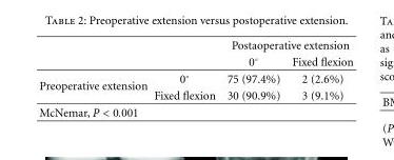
<table><thead><tr><td rowspan="2"></td><td rowspan="2"></td><td colspan="2">Postaoperative extension</td></tr><tr><td>0◦</td><td>Fixed flexion</td></tr></thead><tbody><tr><td rowspan="2">Preoperative extension</td><td>0◦</td><td>75 (97.4%)</td><td>2 (2.6%)</td></tr><tr><td>Fixed flexion</td><td>30 (90.9%)</td><td>3 (9.1%)</td></tr><tr><td>McNemar, P &lt; 0.001</td><td></td><td></td><td></td></tr></tbody></table>